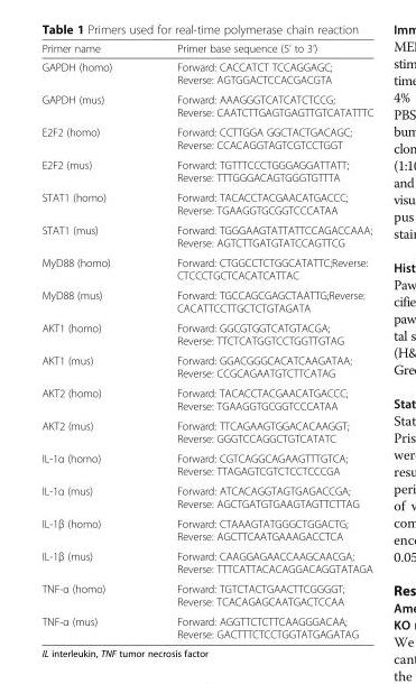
<table><thead><tr><td>Primer name</td><td>Primer base sequence (5’ to 3’)</td></tr></thead><tbody><tr><td>GAPDH (homo)</td><td>Forward: CACCATCT TCCAGGAGC; Reverse: AGTGGACTCCACGACGTA</td></tr><tr><td>GAPDH (mus)</td><td>Forward: AAAGGGTCATCATCTCCG; Reverse: CAATCTTGAGTGAGTTGTCATATTTC</td></tr><tr><td>E2F2 (homo)</td><td>Forward: CCTTGGA GGCTACTGACAGC; Reverse: CCACAGGTAGTCGTCCTGGT</td></tr><tr><td>E2F2 (mus)</td><td>Forward: TGTTTCCCTGGGAGGATTATT; Reverse: TTTGGGACAGTGGGTGTTTA</td></tr><tr><td>STAT1 (homo)</td><td>Forward: TACACCTACGAACATGACCC; Reverse: TGAAGGTGCGGTCCCATAA</td></tr><tr><td>STAT1 (mus)</td><td>Forward: TGGGAAGTATTATTCCAGACCAAA; Reverse: AGTCTTGATGTATCCAGTTCG</td></tr><tr><td>MyD88 (homo)</td><td>Forward: CTGGCCTCTGGCATATTC;Reverse: CTCCCTGCTCACATCATTAC</td></tr><tr><td>MyD88 (mus)</td><td>Forward: TGCCAGCGAGCTAATTG;Reverse: CACATTCCTTGCTCTGTAGATA</td></tr><tr><td>AKT1 (homo)</td><td>Forward: GGCGTGGTCATGTACGA; Reverse: TTCTCATGGTCCTGGTTGTAG</td></tr><tr><td>AKT1 (mus)</td><td>Forward: GGACGGGCACATCAAGATAA; Reverse: CCGCAGAATGTCTTCATAG</td></tr><tr><td>AKT2 (homo)</td><td>Forward: TACACCTACGAACATGACCC; Reverse: TGAAGGTGCGGTCCCATAA</td></tr><tr><td>AKT2 (mus)</td><td>Forward: TTCAGAAGTGGACACAAGGT; Reverse: GGGTCCAGGCTGTCATATC</td></tr><tr><td>IL-1α (homo)</td><td>Forward: CGTCAGGCAGAAGTTTGTCA; Reverse: TTAGAGTCGTCTCCTCCCGA</td></tr><tr><td>IL-1α (mus)</td><td>Forward: ATCACAGGTAGTGAGACCGA; Reverse: AGCTGATGTGAAGTAGTTCTTAG</td></tr><tr><td>IL-1β (homo)</td><td>Forward: CTAAAGTATGGGCTGGACTG; Reverse: AGCTTCAATGAAAGACCTCA</td></tr><tr><td>IL-1β (mus)</td><td>Forward: CAAGGAGAACCAAGCAACGA; Reverse: TTTCATTACACAGGACAGGTATAGA</td></tr><tr><td>TNF-α (homo)</td><td>Forward: TGTCTACTGAACTTCGGGGT; Reverse: TCACAGAGCAATGACTCCAA</td></tr><tr><td>TNF-α (mus)</td><td>Forward: AGGTTCTCTTCAAGGGACAA; Reverse: GACTTTCTCCTGGTATGAGATAG</td></tr></tbody></table>